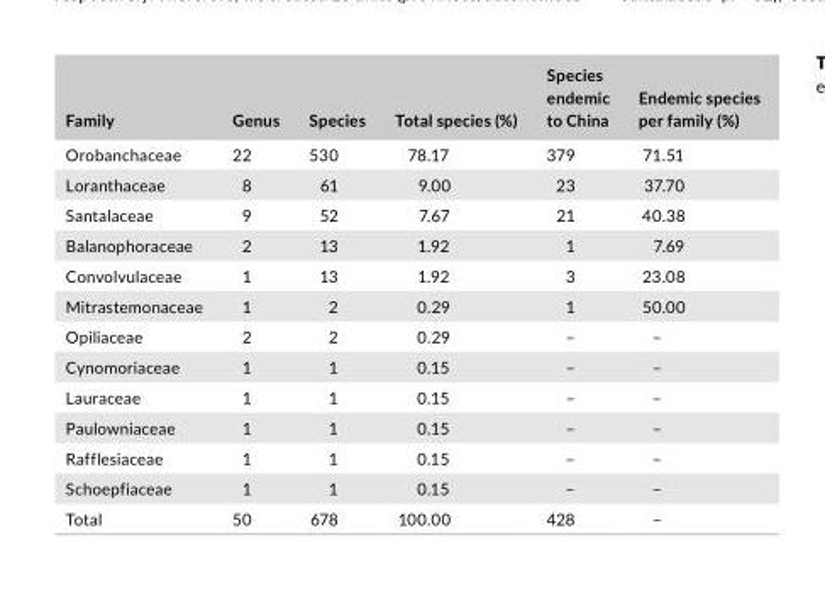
<table><thead><tr><td>Family</td><td>Genus</td><td>Species</td><td>Total species (%)</td><td>Species endemic to China</td><td>Endemic species per family (%)</td></tr></thead><tbody><tr><td>Orobanchaceae</td><td>22</td><td>530</td><td>78.17</td><td>379</td><td>71.51</td></tr><tr><td>Loranthaceae</td><td>8</td><td>61</td><td>9.00</td><td>23</td><td>37.70</td></tr><tr><td>Santalaceae</td><td>9</td><td>52</td><td>7.67</td><td>21</td><td>40.38</td></tr><tr><td>Balanophoraceae</td><td>2</td><td>13</td><td>1.92</td><td>1</td><td>7.69</td></tr><tr><td>Convolvulaceae</td><td>1</td><td>13</td><td>1.92</td><td>3</td><td>23.08</td></tr><tr><td>Mitrastemonaceae</td><td>1</td><td>2</td><td>0.29</td><td>1</td><td>50.00</td></tr><tr><td>Opiliaceae</td><td>2</td><td>2</td><td>0.29</td><td>–</td><td>–</td></tr><tr><td>Cynomoriaceae</td><td>1</td><td>1</td><td>0.15</td><td>–</td><td>–</td></tr><tr><td>Lauraceae</td><td>1</td><td>1</td><td>0.15</td><td>–</td><td>–</td></tr><tr><td>Paulowniaceae</td><td>1</td><td>1</td><td>0.15</td><td>–</td><td>–</td></tr><tr><td>Rafflesiaceae</td><td>1</td><td>1</td><td>0.15</td><td>–</td><td>–</td></tr><tr><td>Schoepfiaceae</td><td>1</td><td>1</td><td>0.15</td><td>–</td><td>–</td></tr><tr><td>Total</td><td>50</td><td>678</td><td>100.00</td><td>428</td><td>–</td></tr></tbody></table>